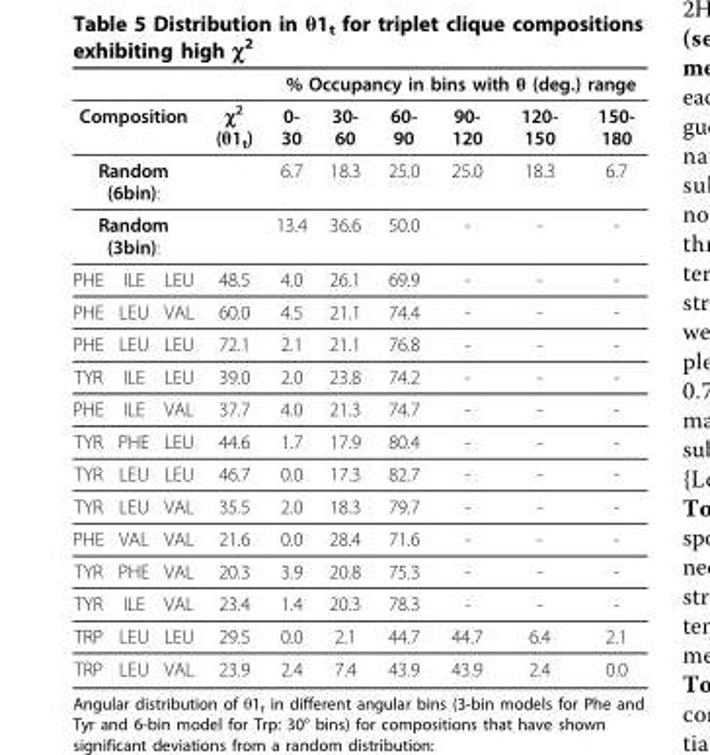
<table><thead><tr><td></td><td></td><td></td><td rowspan="2">χ<sup>2</sup> (θ1<sub>t</sub>)</td><td colspan="6">% Occupancy in bins with θ (deg.) range</td></tr><tr><td colspan="3">Composition</td><td>0- 30</td><td>30- 60</td><td>60- 90</td><td>90- 120</td><td>120- 150</td><td>150- 180</td></tr></thead><tbody><tr><td colspan="3">Random (6bin):</td><td></td><td>6.7</td><td>18.3</td><td>25.0</td><td>25.0</td><td>18.3</td><td>6.7</td></tr><tr><td colspan="3">Random (3bin):</td><td></td><td>13.4</td><td>36.6</td><td>50.0</td><td>-</td><td>-</td><td>-</td></tr><tr><td>PHE</td><td>ILE</td><td>LEU</td><td>48.5</td><td>4.0</td><td>26.1</td><td>69.9</td><td>-</td><td>-</td><td>-</td></tr><tr><td>PHE</td><td>LEU</td><td>VAL</td><td>60.0</td><td>4.5</td><td>21.1</td><td>74.4</td><td>-</td><td>-</td><td>-</td></tr><tr><td>PHE</td><td>LEU</td><td>LEU</td><td>72.1</td><td>2.1</td><td>21.1</td><td>76.8</td><td>-</td><td>-</td><td>-</td></tr><tr><td>TYR</td><td>ILE</td><td>LEU</td><td>39.0</td><td>2.0</td><td>23.8</td><td>74.2</td><td>-</td><td>-</td><td>-</td></tr><tr><td>PHE</td><td>ILE</td><td>VAL</td><td>37.7</td><td>4.0</td><td>21.3</td><td>74.7</td><td>-</td><td>-</td><td>-</td></tr><tr><td>TYR</td><td>PHE</td><td>LEU</td><td>44.6</td><td>1.7</td><td>17.9</td><td>80.4</td><td>-</td><td>-</td><td>-</td></tr><tr><td>TYR</td><td>LEU</td><td>LEU</td><td>46.7</td><td>0.0</td><td>17.3</td><td>82.7</td><td>-</td><td>-</td><td>-</td></tr><tr><td>TYR</td><td>LEU</td><td>VAL</td><td>35.5</td><td>2.0</td><td>18.3</td><td>79.7</td><td>-</td><td>-</td><td>-</td></tr><tr><td>PHE</td><td>VAL</td><td>VAL</td><td>21.6</td><td>0.0</td><td>28.4</td><td>71.6</td><td>-</td><td>-</td><td>-</td></tr><tr><td>TYR</td><td>PHE</td><td>VAL</td><td>20.3</td><td>3.9</td><td>20.8</td><td>75.3</td><td>-</td><td>-</td><td>-</td></tr><tr><td>TYR</td><td>ILE</td><td>VAL</td><td>23.4</td><td>1.4</td><td>20.3</td><td>78.3</td><td>-</td><td>-</td><td>-</td></tr><tr><td>TRP</td><td>LEU</td><td>LEU</td><td>29.5</td><td>0.0</td><td>2.1</td><td>44.7</td><td>44.7</td><td>6.4</td><td>2.1</td></tr><tr><td>TRP</td><td>LEU</td><td>VAL</td><td>23.9</td><td>2.4</td><td>7.4</td><td>43.9</td><td>43.9</td><td>2.4</td><td>0.0</td></tr></tbody></table>